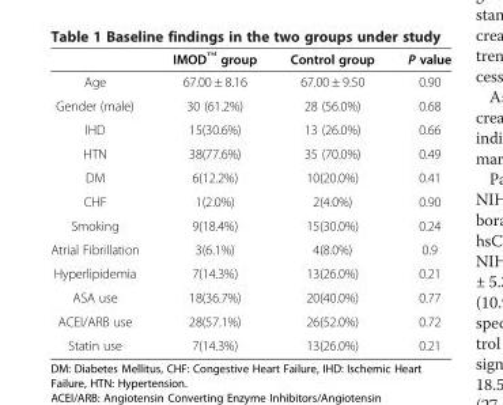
<table><thead><tr><td></td><td>IMOD™ group</td><td>Control group</td><td>P value</td></tr></thead><tbody><tr><td>Age</td><td>67.00 ± 8.16</td><td>67.00 ± 9.50</td><td>0.90</td></tr><tr><td>Gender (male)</td><td>30 (61.2%)</td><td>28 (56.0%)</td><td>0.68</td></tr><tr><td>IHD</td><td>15(30.6%)</td><td>13 (26.0%)</td><td>0.66</td></tr><tr><td>HTN</td><td>38(77.6%)</td><td>35 (70.0%)</td><td>0.49</td></tr><tr><td>DM</td><td>6(12.2%)</td><td>10(20.0%)</td><td>0.41</td></tr><tr><td>CHF</td><td>1(2.0%)</td><td>2(4.0%)</td><td>0.90</td></tr><tr><td>Smoking</td><td>9(18.4%)</td><td>15(30.0%)</td><td>0.24</td></tr><tr><td>Atrial Fibrillation</td><td>3(6.1%)</td><td>4(8.0%)</td><td>0.9</td></tr><tr><td>Hyperlipidemia</td><td>7(14.3%)</td><td>13(26.0%)</td><td>0.21</td></tr><tr><td>ASA use</td><td>18(36.7%)</td><td>20(40.0%)</td><td>0.77</td></tr><tr><td>ACEI/ARB use</td><td>28(57.1%)</td><td>26(52.0%)</td><td>0.72</td></tr><tr><td>Statin use</td><td>7(14.3%)</td><td>13(26.0%)</td><td>0.21</td></tr></tbody></table>